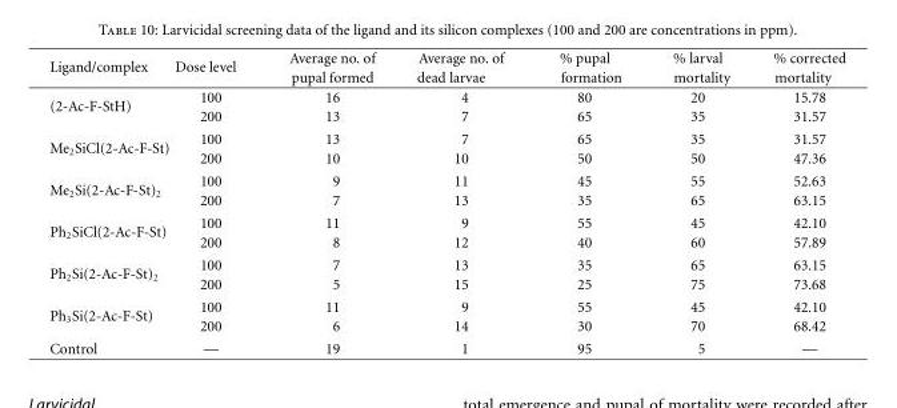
<table><tbody><tr><td rowspan="2">Ligand/complex</td><td rowspan="2">Dose level</td><td>Average no. of</td><td>Average no. of</td><td>% pupal</td><td>% larval</td><td>% corrected</td></tr><tr><td>pupal formed</td><td>dead larvae</td><td>formation</td><td>mortality</td><td>mortality</td></tr><tr><td rowspan="2">(2-Ac-F-StH)</td><td>100</td><td>16</td><td>4</td><td>80</td><td>20</td><td>15.78</td></tr><tr><td>200</td><td>13</td><td>7</td><td>65</td><td>35</td><td>31.57</td></tr><tr><td rowspan="2">Me<sub>2</sub>SiCl(2-Ac-F-St)</td><td>100</td><td>13</td><td>7</td><td>65</td><td>35</td><td>31.57</td></tr><tr><td>200</td><td>10</td><td>10</td><td>50</td><td>50</td><td>47.36</td></tr><tr><td rowspan="2">Me<sub>2</sub>Si(2-Ac-F-St)<sub>2</sub></td><td>100</td><td>9</td><td>11</td><td>45</td><td>55</td><td>52.63</td></tr><tr><td>200</td><td>7</td><td>13</td><td>35</td><td>65</td><td>63.15</td></tr><tr><td rowspan="2">Ph<sub>2</sub>SiCl(2-Ac-F-St)</td><td>100</td><td>11</td><td>9</td><td>55</td><td>45</td><td>42.10</td></tr><tr><td>200</td><td>8</td><td>12</td><td>40</td><td>60</td><td>57.89</td></tr><tr><td rowspan="2">Ph<sub>2</sub>Si(2-Ac-F-St)<sub>2</sub></td><td>100</td><td>7</td><td>13</td><td>35</td><td>65</td><td>63.15</td></tr><tr><td>200</td><td>5</td><td>15</td><td>25</td><td>75</td><td>73.68</td></tr><tr><td rowspan="2">Ph<sub>3</sub>Si(2-Ac-F-St)</td><td>100</td><td>11</td><td>9</td><td>55</td><td>45</td><td>42.10</td></tr><tr><td>200</td><td>6</td><td>14</td><td>30</td><td>70</td><td>68.42</td></tr><tr><td>Control</td><td>—</td><td>19</td><td>1</td><td>95</td><td>5</td><td>—</td></tr></tbody></table>